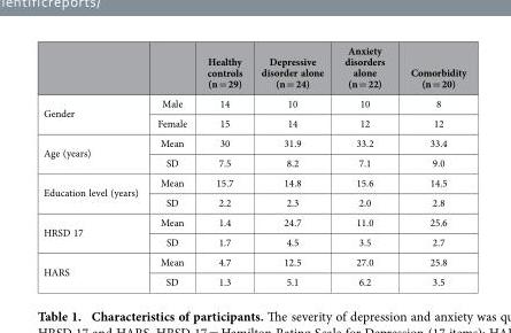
<table><thead><tr><td></td><td></td><td>Healthy controls (n = 29)</td><td>Depressive disorder alone (n = 24)</td><td>Anxiety disorders alone (n = 22)</td><td>Comorbidity (n = 20)</td></tr></thead><tbody><tr><td rowspan="2">Gender</td><td>Male</td><td>14</td><td>10</td><td>10</td><td>8</td></tr><tr><td>Female</td><td>15</td><td>14</td><td>12</td><td>12</td></tr><tr><td rowspan="2">Age (years)</td><td>Mean</td><td>30</td><td>31.9</td><td>33.2</td><td>33.4</td></tr><tr><td>SD</td><td>7.5</td><td>8.2</td><td>7.1</td><td>9.0</td></tr><tr><td rowspan="2">Education level (years)</td><td>Mean</td><td>15.7</td><td>14.8</td><td>15.6</td><td>14.5</td></tr><tr><td>SD</td><td>2.2</td><td>2.3</td><td>2.0</td><td>2.8</td></tr><tr><td rowspan="2">HRSD 17</td><td>Mean</td><td>1.4</td><td>24.7</td><td>11.0</td><td>25.6</td></tr><tr><td>SD</td><td>1.7</td><td>4.5</td><td>3.5</td><td>2.7</td></tr><tr><td rowspan="2">HARS</td><td>Mean</td><td>4.7</td><td>12.5</td><td>27.0</td><td>25.8</td></tr><tr><td>SD</td><td>1.3</td><td>5.1</td><td>6.2</td><td>3.5</td></tr></tbody></table>